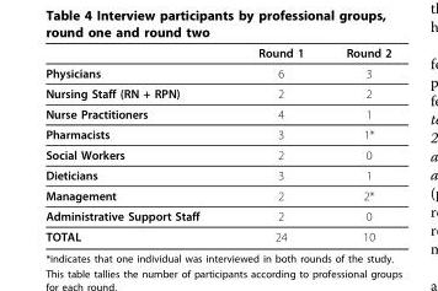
<table><thead><tr><td></td><td>Round 1</td><td>Round 2</td></tr></thead><tbody><tr><td>Physicians</td><td>6</td><td>3</td></tr><tr><td>Nursing Staff (RN + RPN)</td><td>2</td><td>2</td></tr><tr><td>Nurse Practitioners</td><td>4</td><td>1</td></tr><tr><td>Pharmacists</td><td>3</td><td>1*</td></tr><tr><td>Social Workers</td><td>2</td><td>0</td></tr><tr><td>Dieticians</td><td>3</td><td>1</td></tr><tr><td>Management</td><td>2</td><td>2*</td></tr><tr><td>Administrative Support Staff</td><td>2</td><td>0</td></tr><tr><td>TOTAL</td><td>24</td><td>10</td></tr></tbody></table>